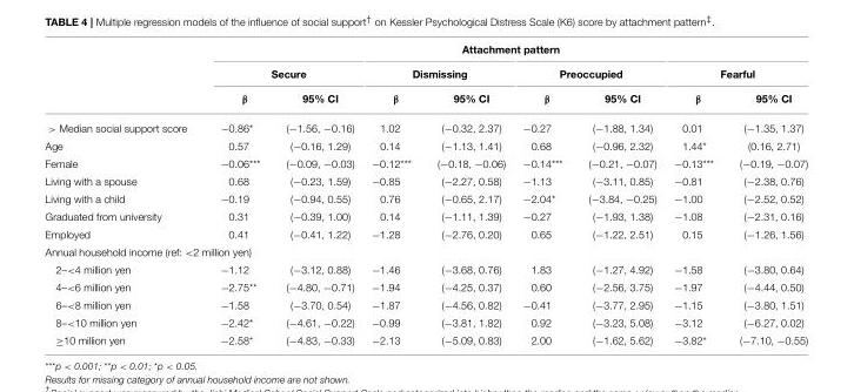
<table><thead><tr><td rowspan="3"></td><td colspan="8">Attachment pattern</td></tr><tr><td colspan="2">Secure</td><td colspan="2">Dismissing</td><td colspan="2">Preoccupied</td><td colspan="2">Fearful</td></tr><tr><td>β</td><td>95% CI</td><td>β</td><td>95% CI</td><td>β</td><td>95% CI</td><td>β</td><td>95% CI</td></tr></thead><tbody><tr><td>&gt; Median social support score</td><td>−0.86*</td><td>(−1.56, −0.16)</td><td>1.02</td><td>(−0.32, 2.37)</td><td>−0.27</td><td>(−1.88, 1.34)</td><td>0.01</td><td>(−1.35, 1.37)</td></tr><tr><td>Age</td><td>0.57</td><td>(−0.16, 1.29)</td><td>0.14</td><td>(−1.13, 1.41)</td><td>0.68</td><td>(−0.96, 2.32)</td><td>1.44*</td><td>(0.16, 2.71)</td></tr><tr><td>Female</td><td>−0.06***</td><td>(−0.09, −0.03)</td><td>−0.12***</td><td>(−0.18, −0.06)</td><td>−0.14***</td><td>(−0.21, −0.07)</td><td>−0.13***</td><td>(−0.19, −0.07)</td></tr><tr><td>Living with a spouse</td><td>0.68</td><td>(−0.23, 1.59)</td><td>−0.85</td><td>(−2.27, 0.58)</td><td>−1.13</td><td>(−3.11, 0.85)</td><td>−0.81</td><td>(−2.38, 0.76)</td></tr><tr><td>Living with a child</td><td>−0.19</td><td>(−0.94, 0.55)</td><td>0.76</td><td>(−0.65, 2.17)</td><td>−2.04*</td><td>(−3.84, −0.25)</td><td>−1.00</td><td>(−2.52, 0.52)</td></tr><tr><td>Graduated from university</td><td>0.31</td><td>(−0.39, 1.00)</td><td>0.14</td><td>(−1.11, 1.39)</td><td>−0.27</td><td>(−1.93, 1.38)</td><td>−1.08</td><td>(−2.31, 0.16)</td></tr><tr><td>Employed</td><td>0.41</td><td>(−0.41, 1.22)</td><td>−1.28</td><td>(−2.76, 0.20)</td><td>0.65</td><td>(−1.22, 2.51)</td><td>0.15</td><td>(−1.26, 1.56)</td></tr><tr><td colspan="9">Annual household income (ref: &lt;2 million yen)</td></tr><tr><td>2–&lt;4 million yen</td><td>−1.12</td><td>(−3.12, 0.88)</td><td>−1.46</td><td>(−3.68, 0.76)</td><td>1.83</td><td>(−1.27, 4.92)</td><td>−1.58</td><td>(−3.80, 0.64)</td></tr><tr><td>4–&lt;6 million yen</td><td>−2.75**</td><td>(−4.80, −0.71)</td><td>−1.94</td><td>(−4.25, 0.37)</td><td>0.60</td><td>(−2.56, 3.75)</td><td>−1.97</td><td>(−4.44, 0.50)</td></tr><tr><td>6–&lt;8 million yen</td><td>−1.58</td><td>(−3.70, 0.54)</td><td>−1.87</td><td>(−4.56, 0.82)</td><td>−0.41</td><td>(−3.77, 2.95)</td><td>−1.15</td><td>(−3.80, 1.51)</td></tr><tr><td>8–&lt;10 million yen</td><td>−2.42*</td><td>(−4.61, −0.22)</td><td>−0.99</td><td>(−3.81, 1.82)</td><td>0.92</td><td>(−3.23, 5.08)</td><td>−3.12</td><td>(−6.27, 0.02)</td></tr><tr><td>≥10 million yen</td><td>−2.58*</td><td>(−4.83, −0.33)</td><td>−2.13</td><td>(−5.09, 0.83)</td><td>2.00</td><td>(−1.62, 5.62)</td><td>−3.82*</td><td>(−7.10, −0.55)</td></tr></tbody></table>